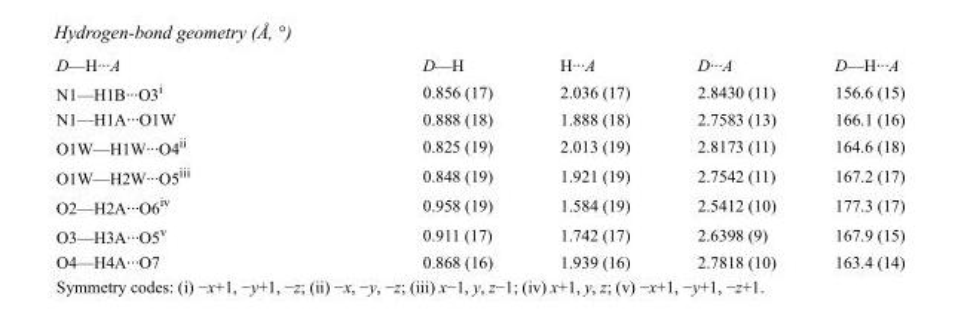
<table><tbody><tr><td>D—H···A</td><td>D—H</td><td>H···A</td><td>D···A</td><td>D—H···A</td></tr><tr><td>N1—H1B···O3<sup>i</sup></td><td>0.856 (17)</td><td>2.036 (17)</td><td>2.8430 (11)</td><td>156.6 (15)</td></tr><tr><td>N1—H1A···O1W</td><td>0.888 (18)</td><td>1.888 (18)</td><td>2.7583 (13)</td><td>166.1 (16)</td></tr><tr><td>O1W—H1W···O4<sup>ii</sup></td><td>0.825 (19)</td><td>2.013 (19)</td><td>2.8173 (11)</td><td>164.6 (18)</td></tr><tr><td>O1W—H2W···O5<sup>iii</sup></td><td>0.848 (19)</td><td>1.921 (19)</td><td>2.7542 (11)</td><td>167.2 (17)</td></tr><tr><td>O2—H2A···O6<sup>iv</sup></td><td>0.958 (19)</td><td>1.584 (19)</td><td>2.5412 (10)</td><td>177.3 (17)</td></tr><tr><td>O3—H3A···O5<sup>v</sup></td><td>0.911 (17)</td><td>1.742 (17)</td><td>2.6398 (9)</td><td>167.9 (15)</td></tr><tr><td>O4—H4A···O7</td><td>0.868 (16)</td><td>1.939 (16)</td><td>2.7818 (10)</td><td>163.4 (14)</td></tr></tbody></table>